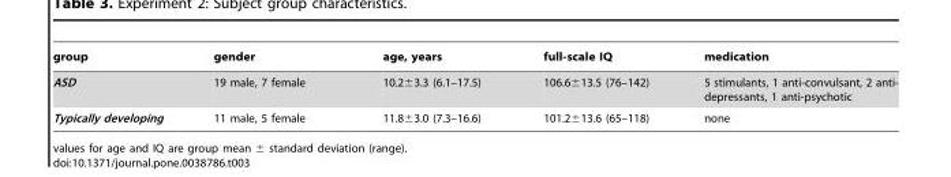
<table><thead><tr><td>group</td><td>gender</td><td>age, years</td><td>full-scale IQ</td><td>medication</td></tr></thead><tbody><tr><td>ASD</td><td>19 male, 7 female</td><td>10.2±3.3 (6.1–17.5)</td><td>106.6±13.5 (76–142)</td><td>5 stimulants, 1 anti-convulsant, 2 anti- depressants, 1 anti-psychotic</td></tr><tr><td>Typically developing</td><td>11 male, 5 female</td><td>11.8±3.0 (7.3–16.6)</td><td>101.2±13.6 (65–118)</td><td>none</td></tr></tbody></table>